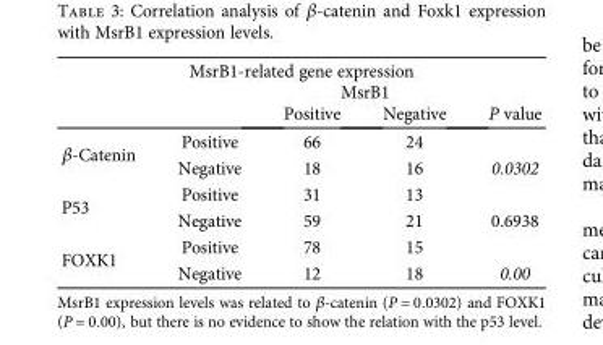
<table><thead><tr><td colspan="5">MsrB1-related gene expression</td></tr><tr><td rowspan="2"></td><td rowspan="2"></td><td colspan="2">MsrB1</td><td rowspan="2">P value</td></tr><tr><td>Positive</td><td>Negative</td></tr></thead><tbody><tr><td rowspan="2">β-Catenin</td><td>Positive</td><td>66</td><td>24</td><td></td></tr><tr><td>Negative</td><td>18</td><td>16</td><td>0.0302</td></tr><tr><td rowspan="2">P53</td><td>Positive</td><td>31</td><td>13</td><td></td></tr><tr><td>Negative</td><td>59</td><td>21</td><td>0.6938</td></tr><tr><td rowspan="2">FOXK1</td><td>Positive</td><td>78</td><td>15</td><td></td></tr><tr><td>Negative</td><td>12</td><td>18</td><td>0.00</td></tr></tbody></table>